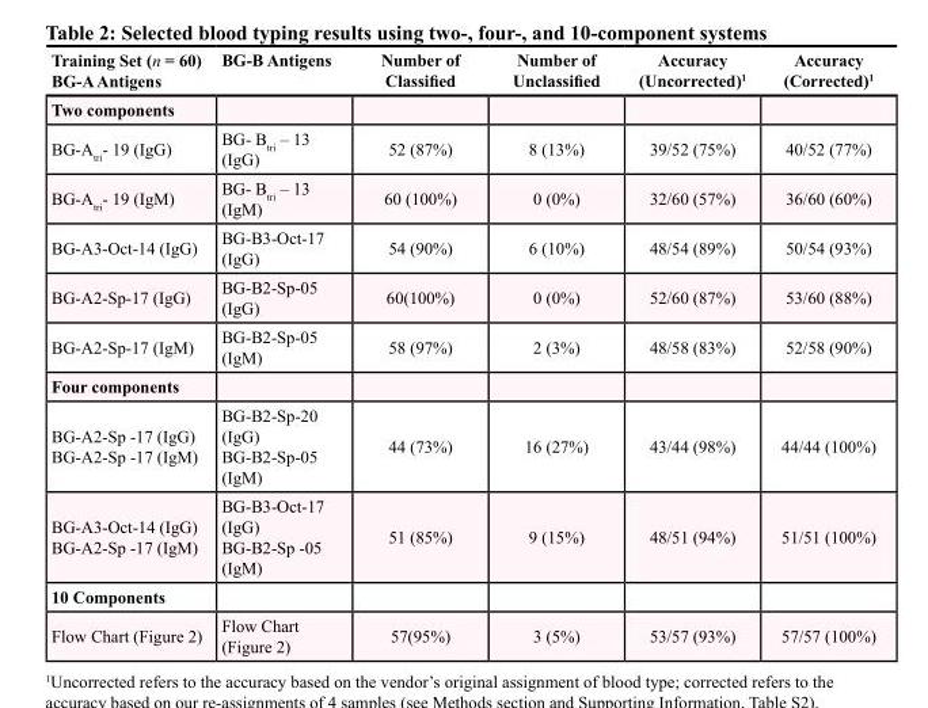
<table><thead><tr><td>Training Set (n = 60) BG-A Antigens</td><td>BG-B Antigens</td><td>Number of Classified</td><td>Number of Unclassified</td><td>Accuracy (Uncorrected)<sup>1</sup></td><td>Accuracy (Corrected)<sup>1</sup></td></tr></thead><tbody><tr><td colspan="6">Two components</td></tr><tr><td>BG-A<sub>tri</sub>- 19 (IgG)</td><td>BG- B<sub>tri</sub> – 13 (IgG)</td><td>52 (87%)</td><td>8 (13%)</td><td>39/52 (75%)</td><td>40/52 (77%)</td></tr><tr><td>BG-A<sub>tri</sub>- 19 (IgM)</td><td>BG- B<sub>tri</sub> – 13 (IgM)</td><td>60 (100%)</td><td>0 (0%)</td><td>32/60 (57%)</td><td>36/60 (60%)</td></tr><tr><td>BG-A3-Oct-14 (IgG)</td><td>BG-B3-Oct-17 (IgG)</td><td>54 (90%)</td><td>6 (10%)</td><td>48/54 (89%)</td><td>50/54 (93%)</td></tr><tr><td>BG-A2-Sp-17 (IgG)</td><td>BG-B2-Sp-05 (IgG)</td><td>60(100%)</td><td>0 (0%)</td><td>52/60 (87%)</td><td>53/60 (88%)</td></tr><tr><td>BG-A2-Sp-17 (IgM)</td><td>BG-B2-Sp-05 (IgM)</td><td>58 (97%)</td><td>2 (3%)</td><td>48/58 (83%)</td><td>52/58 (90%)</td></tr><tr><td colspan="6">Four components</td></tr><tr><td>BG-A2-Sp -17 (IgG) BG-A2-Sp -17 (IgM)</td><td>BG-B2-Sp-20 (IgG) BG-B2-Sp-05 (IgM)</td><td>44 (73%)</td><td>16 (27%)</td><td>43/44 (98%)</td><td>44/44 (100%)</td></tr><tr><td>BG-A3-Oct-14 (IgG) BG-A2-Sp -17 (IgM)</td><td>BG-B3-Oct-17 (IgG) BG-B2-Sp -05 (IgM)</td><td>51 (85%)</td><td>9 (15%)</td><td>48/51 (94%)</td><td>51/51 (100%)</td></tr><tr><td colspan="6">10 Components</td></tr><tr><td>Flow Chart (Figure 2)</td><td>Flow Chart (Figure 2)</td><td>57(95%)</td><td>3 (5%)</td><td>53/57 (93%)</td><td>57/57 (100%)</td></tr></tbody></table>